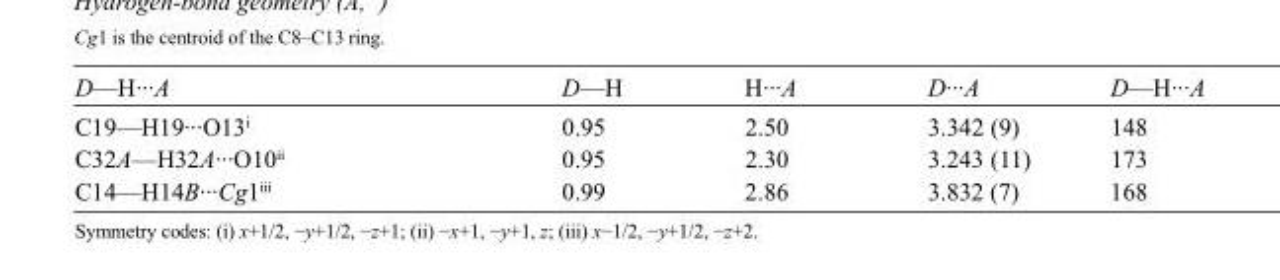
<table><tbody><tr><td>D—H···A</td><td>D—H</td><td>H···A</td><td>D···A</td><td>D—H···A</td></tr><tr><td>C19—H19···O13<sup>i</sup></td><td>0.95</td><td>2.50</td><td>3.342 (9)</td><td>148</td></tr><tr><td>C32A—H32A···O10<sup>ii</sup></td><td>0.95</td><td>2.30</td><td>3.243 (11)</td><td>173</td></tr><tr><td>C14—H14B···Cg1<sup>iii</sup></td><td>0.99</td><td>2.86</td><td>3.832 (7)</td><td>168</td></tr></tbody></table>